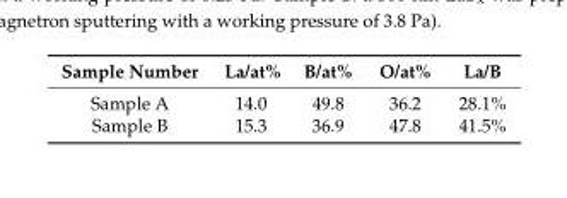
<table><thead><tr><td>Sample Number</td><td>La/at%</td><td>B/at%</td><td>O/at%</td><td>La/B</td></tr></thead><tbody><tr><td>Sample A</td><td>14.0</td><td>49.8</td><td>36.2</td><td>28.1%</td></tr><tr><td>Sample B</td><td>15.3</td><td>36.9</td><td>47.8</td><td>41.5%</td></tr></tbody></table>